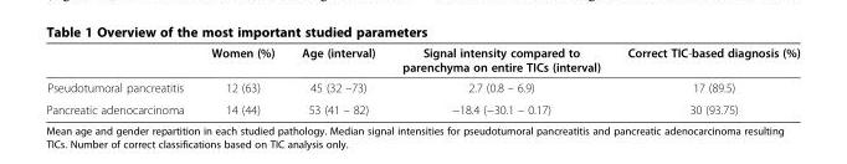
<table><thead><tr><td></td><td>Women (%)</td><td>Age (interval)</td><td>Signal intensity compared to parenchyma on entire TICs (interval)</td><td>Correct TIC-based diagnosis (%)</td></tr></thead><tbody><tr><td>Pseudotumoral pancreatitis</td><td>12 (63)</td><td>45 (32 –73)</td><td>2.7 (0.8 – 6.9)</td><td>17 (89.5)</td></tr><tr><td>Pancreatic adenocarcinoma</td><td>14 (44)</td><td>53 (41 – 82)</td><td>−18.4 (−30.1 – 0.17)</td><td>30 (93.75)</td></tr></tbody></table>